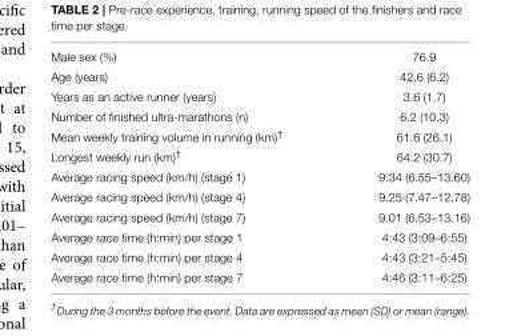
<table><tbody><tr><td>Male sex (%)</td><td>76.9</td></tr><tr><td>Age (years)</td><td>42.6 (6.2)</td></tr><tr><td>Years as an active runner (years)</td><td>3.6 (1.7)</td></tr><tr><td>Number of finished ultra-marathons (n)</td><td>6.2 (10.3)</td></tr><tr><td>Mean weekly training volume in running (km)<sup>†</sup></td><td>61.6 (26.1)</td></tr><tr><td>Longest weekly run (km)<sup>†</sup></td><td>64.2 (30.7)</td></tr><tr><td>Average racing speed (km/h) (stage 1)</td><td>9.34 (6.55–13.60)</td></tr><tr><td>Average racing speed (km/h) (stage 4)</td><td>9.25 (7.47–12.78)</td></tr><tr><td>Average racing speed (km/h) (stage 7)</td><td>9.01 (6.53–13.16)</td></tr><tr><td>Average race time (h:min) per stage 1</td><td>4:43 (3:09–6:55)</td></tr><tr><td>Average race time (h:min) per stage 4</td><td>4:43 (3:21–5:45)</td></tr><tr><td>Average race time (h:min) per stage 7</td><td>4:46 (3:11–6:25)</td></tr></tbody></table>